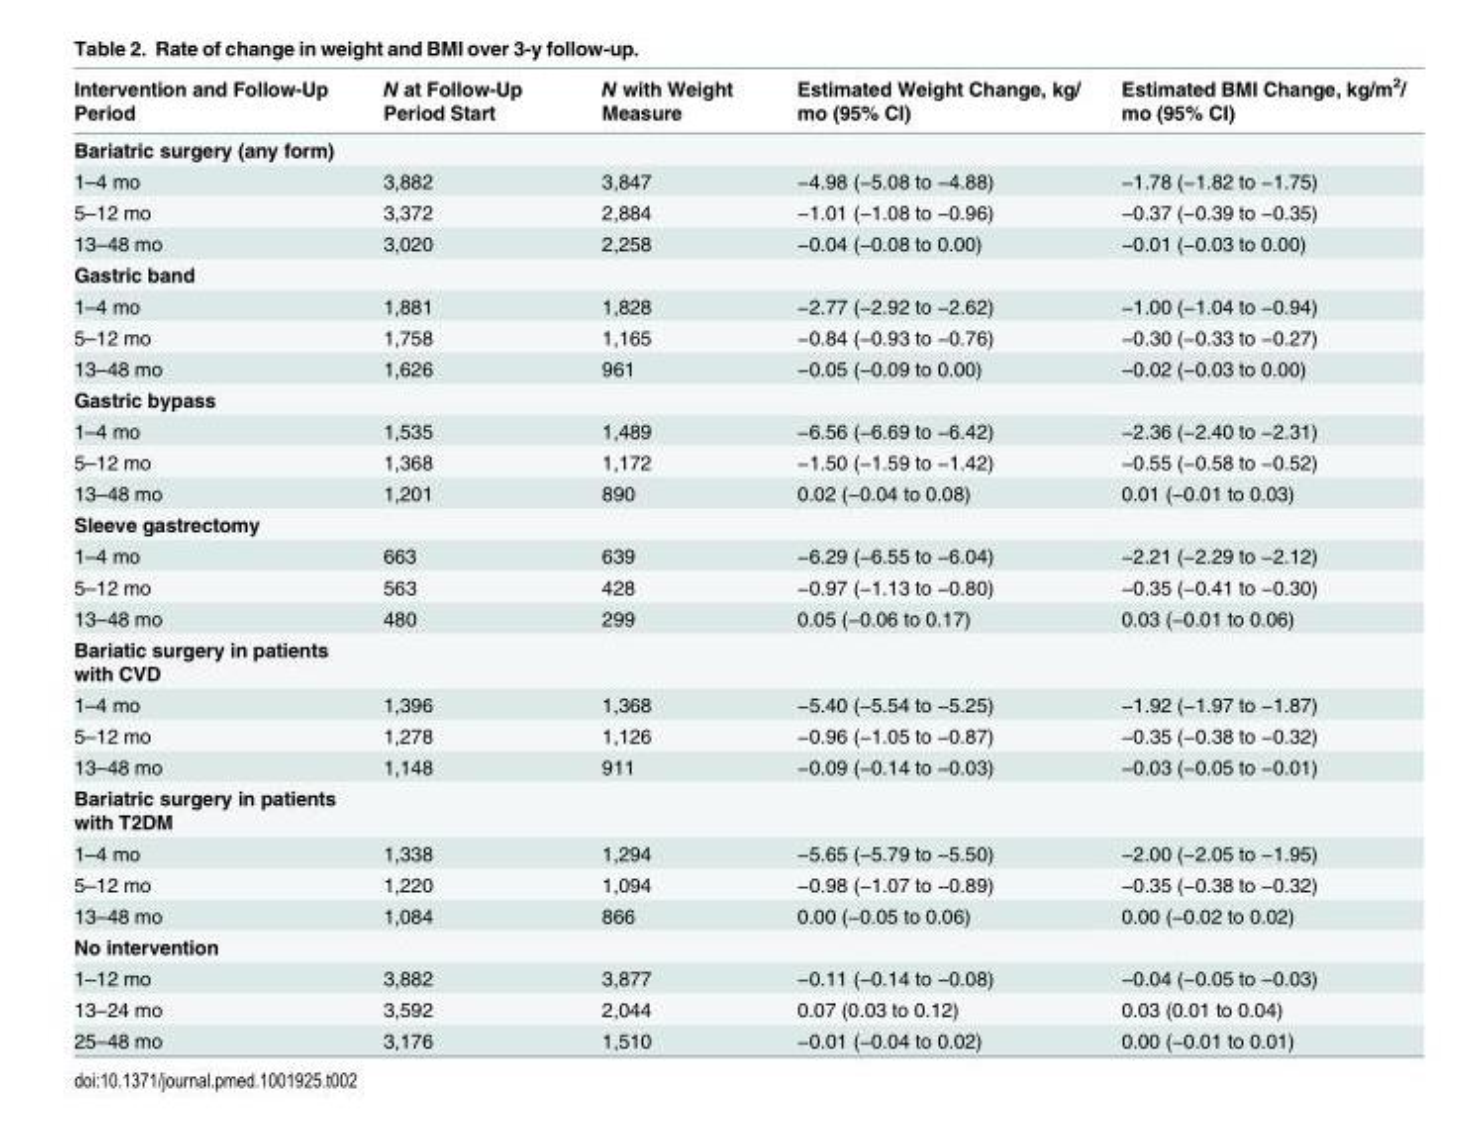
<table><thead><tr><td>Intervention and Follow-Up Period</td><td>N at Follow-Up Period Start</td><td>N with Weight Measure</td><td>Estimated Weight Change, kg/ mo (95% CI)</td><td>Estimated BMI Change, kg/m<sup>2</sup>/ mo (95% CI)</td></tr></thead><tbody><tr><td colspan="5">Bariatric surgery (any form)</td></tr><tr><td>1–4 mo</td><td>3,882</td><td>3,847</td><td>−4.98 (−5.08 to −4.88)</td><td>−1.78 (−1.82 to −1.75)</td></tr><tr><td>5–12 mo</td><td>3,372</td><td>2,884</td><td>−1.01 (−1.08 to −0.96)</td><td>−0.37 (−0.39 to −0.35)</td></tr><tr><td>13–48 mo</td><td>3,020</td><td>2,258</td><td>−0.04 (−0.08 to 0.00)</td><td>−0.01 (−0.03 to 0.00)</td></tr><tr><td colspan="5">Gastric band</td></tr><tr><td>1–4 mo</td><td>1,881</td><td>1,828</td><td>−2.77 (−2.92 to −2.62)</td><td>−1.00 (−1.04 to −0.94)</td></tr><tr><td>5–12 mo</td><td>1,758</td><td>1,165</td><td>−0.84 (−0.93 to −0.76)</td><td>−0.30 (−0.33 to −0.27)</td></tr><tr><td>13–48 mo</td><td>1,626</td><td>961</td><td>−0.05 (−0.09 to 0.00)</td><td>−0.02 (−0.03 to 0.00)</td></tr><tr><td colspan="5">Gastric bypass</td></tr><tr><td>1–4 mo</td><td>1,535</td><td>1,489</td><td>−6.56 (−6.69 to −6.42)</td><td>−2.36 (−2.40 to −2.31)</td></tr><tr><td>5–12 mo</td><td>1,368</td><td>1,172</td><td>−1.50 (−1.59 to −1.42)</td><td>−0.55 (−0.58 to −0.52)</td></tr><tr><td>13–48 mo</td><td>1,201</td><td>890</td><td>0.02 (−0.04 to 0.08)</td><td>0.01 (−0.01 to 0.03)</td></tr><tr><td colspan="5">Sleeve gastrectomy</td></tr><tr><td>1–4 mo</td><td>663</td><td>639</td><td>−6.29 (−6.55 to −6.04)</td><td>−2.21 (−2.29 to −2.12)</td></tr><tr><td>5–12 mo</td><td>563</td><td>428</td><td>−0.97 (−1.13 to −0.80)</td><td>−0.35 (−0.41 to −0.30)</td></tr><tr><td>13–48 mo</td><td>480</td><td>299</td><td>0.05 (−0.06 to 0.17)</td><td>0.03 (−0.01 to 0.06)</td></tr><tr><td colspan="5">Bariatic surgery in patients with CVD</td></tr><tr><td>1–4 mo</td><td>1,396</td><td>1,368</td><td>−5.40 (−5.54 to −5.25)</td><td>−1.92 (−1.97 to −1.87)</td></tr><tr><td>5–12 mo</td><td>1,278</td><td>1,126</td><td>−0.96 (−1.05 to −0.87)</td><td>−0.35 (−0.38 to −0.32)</td></tr><tr><td>13–48 mo</td><td>1,148</td><td>911</td><td>−0.09 (−0.14 to −0.03)</td><td>−0.03 (−0.05 to −0.01)</td></tr><tr><td colspan="5">Bariatric surgery in patients with T2DM</td></tr><tr><td>1–4 mo</td><td>1,338</td><td>1,294</td><td>−5.65 (−5.79 to −5.50)</td><td>−2.00 (−2.05 to −1.95)</td></tr><tr><td>5–12 mo</td><td>1,220</td><td>1,094</td><td>−0.98 (−1.07 to −0.89)</td><td>−0.35 (−0.38 to −0.32)</td></tr><tr><td>13–48 mo</td><td>1,084</td><td>866</td><td>0.00 (−0.05 to 0.06)</td><td>0.00 (−0.02 to 0.02)</td></tr><tr><td colspan="5">No intervention</td></tr><tr><td>1–12 mo</td><td>3,882</td><td>3,877</td><td>−0.11 (−0.14 to −0.08)</td><td>−0.04 (−0.05 to −0.03)</td></tr><tr><td>13–24 mo</td><td>3,592</td><td>2,044</td><td>0.07 (0.03 to 0.12)</td><td>0.03 (0.01 to 0.04)</td></tr><tr><td>25–48 mo</td><td>3,176</td><td>1,510</td><td>−0.01 (−0.04 to 0.02)</td><td>0.00 (−0.01 to 0.01)</td></tr></tbody></table>